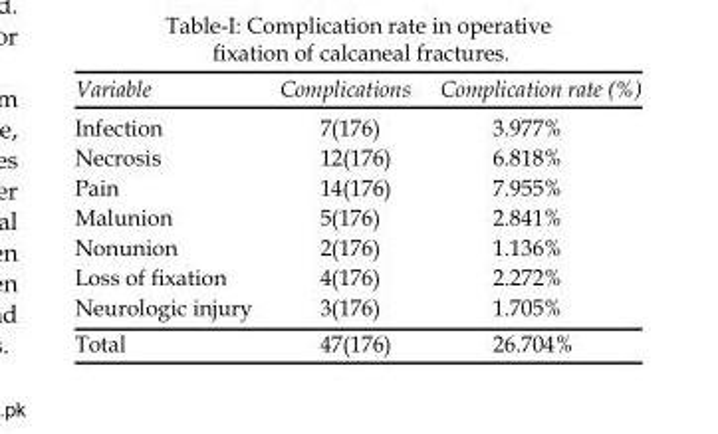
<table><thead><tr><td>Variable</td><td>Complications</td><td>Complication rate (%)</td></tr></thead><tbody><tr><td>Infection</td><td>7(176)</td><td>3.977%</td></tr><tr><td>Necrosis</td><td>12(176)</td><td>6.818%</td></tr><tr><td>Pain</td><td>14(176)</td><td>7.955%</td></tr><tr><td>Malunion</td><td>5(176)</td><td>2.841%</td></tr><tr><td>Nonunion</td><td>2(176)</td><td>1.136%</td></tr><tr><td>Loss of fixation</td><td>4(176)</td><td>2.272%</td></tr><tr><td>Neurologic injury</td><td>3(176)</td><td>1.705%</td></tr><tr><td>Total</td><td>47(176)</td><td>26.704%</td></tr></tbody></table>